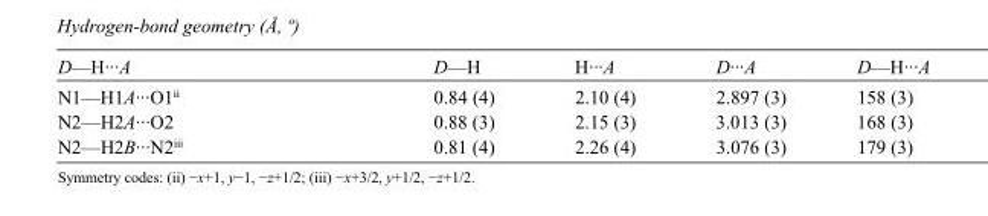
<table><tbody><tr><td>D—H···A</td><td>D—H</td><td>H···A</td><td>D···A</td><td>D—H···A</td></tr><tr><td>N1—H1A···O1<sup>ii</sup></td><td>0.84 (4)</td><td>2.10 (4)</td><td>2.897 (3)</td><td>158 (3)</td></tr><tr><td>N2—H2A···O2</td><td>0.88 (3)</td><td>2.15 (3)</td><td>3.013 (3)</td><td>168 (3)</td></tr><tr><td>N2—H2B···N2<sup>iii</sup></td><td>0.81 (4)</td><td>2.26 (4)</td><td>3.076 (3)</td><td>179 (3)</td></tr></tbody></table>